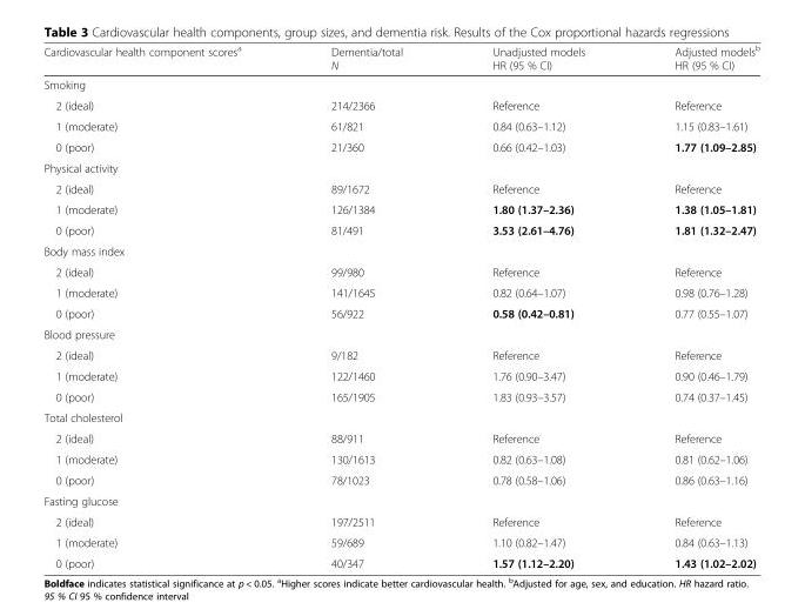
<table><thead><tr><td>Cardiovascular health component scores<sup>a</sup></td><td>Dementia/total N</td><td>Unadjusted models HR (95 % CI)</td><td>Adjusted models<sup>b</sup> HR (95 % CI)</td></tr></thead><tbody><tr><td colspan="4">Smoking</td></tr><tr><td>2 (ideal)</td><td>214/2366</td><td>Reference</td><td>Reference</td></tr><tr><td>1 (moderate)</td><td>61/821</td><td>0.84 (0.63–1.12)</td><td>1.15 (0.83–1.61)</td></tr><tr><td>0 (poor)</td><td>21/360</td><td>0.66 (0.42–1.03)</td><td>1.77 (1.09–2.85)</td></tr><tr><td colspan="4">Physical activity</td></tr><tr><td>2 (ideal)</td><td>89/1672</td><td>Reference</td><td>Reference</td></tr><tr><td>1 (moderate)</td><td>126/1384</td><td>1.80 (1.37–2.36)</td><td>1.38 (1.05–1.81)</td></tr><tr><td>0 (poor)</td><td>81/491</td><td>3.53 (2.61–4.76)</td><td>1.81 (1.32–2.47)</td></tr><tr><td colspan="4">Body mass index</td></tr><tr><td>2 (ideal)</td><td>99/980</td><td>Reference</td><td>Reference</td></tr><tr><td>1 (moderate)</td><td>141/1645</td><td>0.82 (0.64–1.07)</td><td>0.98 (0.76–1.28)</td></tr><tr><td>0 (poor)</td><td>56/922</td><td>0.58 (0.42–0.81)</td><td>0.77 (0.55–1.07)</td></tr><tr><td colspan="4">Blood pressure</td></tr><tr><td>2 (ideal)</td><td>9/182</td><td>Reference</td><td>Reference</td></tr><tr><td>1 (moderate)</td><td>122/1460</td><td>1.76 (0.90–3.47)</td><td>0.90 (0.46–1.79)</td></tr><tr><td>0 (poor)</td><td>165/1905</td><td>1.83 (0.93–3.57)</td><td>0.74 (0.37–1.45)</td></tr><tr><td colspan="4">Total cholesterol</td></tr><tr><td>2 (ideal)</td><td>88/911</td><td>Reference</td><td>Reference</td></tr><tr><td>1 (moderate)</td><td>130/1613</td><td>0.82 (0.63–1.08)</td><td>0.81 (0.62–1.06)</td></tr><tr><td>0 (poor)</td><td>78/1023</td><td>0.78 (0.58–1.06)</td><td>0.86 (0.63–1.16)</td></tr><tr><td colspan="4">Fasting glucose</td></tr><tr><td>2 (ideal)</td><td>197/2511</td><td>Reference</td><td>Reference</td></tr><tr><td>1 (moderate)</td><td>59/689</td><td>1.10 (0.82–1.47)</td><td>0.84 (0.63–1.13)</td></tr><tr><td>0 (poor)</td><td>40/347</td><td>1.57 (1.12–2.20)</td><td>1.43 (1.02–2.02)</td></tr></tbody></table>